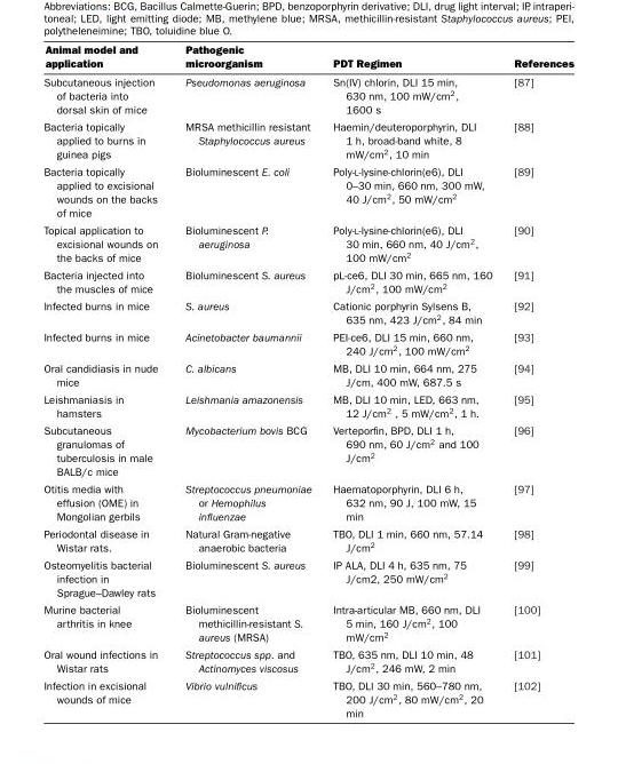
<table><thead><tr><td>Animal model and application</td><td>Pathogenic microorganism</td><td>PDT Regimen</td><td>References</td></tr></thead><tbody><tr><td>Subcutaneous injection of bacteria into dorsal skin of mice</td><td>Pseudomonas aeruginosa</td><td>Sn(IV) chlorin, DLI 15 min, 630 nm, 100 mW/cm2, 1600 s</td><td>[87]</td></tr><tr><td>Bacteria topically applied to burns in guinea pigs</td><td>MRSA methicillin resistant Staphylococcus aureus</td><td>Haemin/deuteroporphyrin, DLI 1 h, broad-band white, 8 mW/cm2, 10 min</td><td>[88]</td></tr><tr><td>Bacteria topically applied to excisional wounds on the backs of mice</td><td>Bioluminescent E. coli</td><td>Poly-L-lysine-chlorin(e6), DLI 0–30 min, 660 nm, 300 mW, 40 J/cm2, 50 mW/cm2</td><td>[89]</td></tr><tr><td>Topical application to excisional wounds on the backs of mice</td><td>Bioluminescent P. aeruginosa</td><td>Poly-L-lysine-chlorin(e6), DLI 30 min, 660 nm, 40 J/cm2, 100 mW/cm2</td><td>[90]</td></tr><tr><td>Bacteria injected into the muscles of mice</td><td>Bioluminescent S. aureus</td><td>pL-ce6, DLI 30 min, 665 nm, 160 J/cm2, 100 mW/cm2</td><td>[91]</td></tr><tr><td>Infected burns in mice</td><td>S. aureus</td><td>Cationic porphyrin Sylsens B, 635 nm, 423 J/cm2, 84 min</td><td>[92]</td></tr><tr><td>Infected burns in mice</td><td>Acinetobacter baumannii</td><td>PEI-ce6, DLI 15 min, 660 nm, 240 J/cm2, 100 mW/cm2</td><td>[93]</td></tr><tr><td>Oral candidiasis in nude mice</td><td>C. albicans</td><td>MB, DLI 10 min, 664 nm, 275 J/cm, 400 mW, 687.5 s</td><td>[94]</td></tr><tr><td>Leishmaniasis in hamsters</td><td>Leishmania amazonensis</td><td>MB, DLI 10 min, LED, 663 nm, 12 J/cm2 , 5 mW/cm2, 1 h.</td><td>[95]</td></tr><tr><td>Subcutaneous granulomas of tuberculosis in male BALB/c mice</td><td>Mycobacterium bovis BCG</td><td>Verteporfin, BPD, DLI 1 h, 690 nm, 60 J/cm2 and 100 J/cm2</td><td>[96]</td></tr><tr><td>Otitis media with effusion (OME) in Mongolian gerbils</td><td>Streptococcus pneumoniae or Hemophilus influenzae</td><td>Haematoporphyrin, DLI 6 h, 632 nm, 90 J, 100 mW, 15 min</td><td>[97]</td></tr><tr><td>Periodontal disease in Wistar rats.</td><td>Natural Gram-negative anaerobic bacteria</td><td>TBO, DLI 1 min, 660 nm, 57.14 J/cm2</td><td>[98]</td></tr><tr><td>Osteomyelitis bacterial infection in Sprague–Dawley rats</td><td>Bioluminescent S. aureus</td><td>IP ALA, DLI 4 h, 635 nm, 75 J/cm2, 250 mW/cm2</td><td>[99]</td></tr><tr><td>Murine bacterial arthritis in knee</td><td>Bioluminescent methicillin-resistant S. aureus (MRSA)</td><td>Intra-articular MB, 660 nm, DLI 5 min, 160 J/cm2, 100 mW/cm2</td><td>[100]</td></tr><tr><td>Oral wound infections in Wistar rats</td><td>Streptococcus spp. and Actinomyces viscosus</td><td>TBO, 635 nm, DLI 10 min, 48 J/cm2, 246 mW, 2 min</td><td>[101]</td></tr><tr><td>Infection in excisional wounds of mice</td><td>Vibrio vulnificus</td><td>TBO, DLI 30 min, 560–780 nm, 200 J/cm2, 80 mW/cm2, 20 min</td><td>[102]</td></tr></tbody></table>